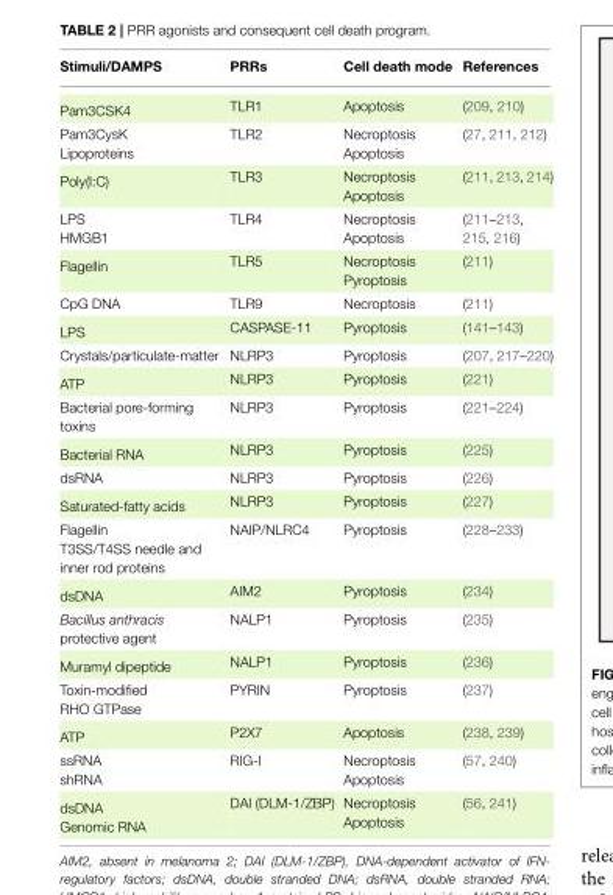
<table><thead><tr><td>Stimuli/DAMPS</td><td>PRRs</td><td>Cell death mode</td><td>References</td></tr></thead><tbody><tr><td>Pam3CSK4</td><td>TLR1</td><td>Apoptosis</td><td>(209, 210)</td></tr><tr><td>Pam3CysK Lipoproteins</td><td>TLR2</td><td>Necroptosis Apoptosis</td><td>(27, 211, 212)</td></tr><tr><td>Poly(I:C)</td><td>TLR3</td><td>Necroptosis Apoptosis</td><td>(211, 213, 214)</td></tr><tr><td>LPS HMGB1</td><td>TLR4</td><td>Necroptosis Apoptosis</td><td>(211–213, 215, 216)</td></tr><tr><td>Flagellin</td><td>TLR5</td><td>Necroptosis Pyroptosis</td><td>(211)</td></tr><tr><td>CpG DNA</td><td>TLR9</td><td>Necroptosis</td><td>(211)</td></tr><tr><td>LPS</td><td>CASPASE-11</td><td>Pyroptosis</td><td>(141–143)</td></tr><tr><td>Crystals/particulate-matter</td><td>NLRP3</td><td>Pyroptosis</td><td>(207, 217–220)</td></tr><tr><td>ATP</td><td>NLRP3</td><td>Pyroptosis</td><td>(221)</td></tr><tr><td>Bacterial pore-forming toxins</td><td>NLRP3</td><td>Pyroptosis</td><td>(221–224)</td></tr><tr><td>Bacterial RNA</td><td>NLRP3</td><td>Pyroptosis</td><td>(225)</td></tr><tr><td>dsRNA</td><td>NLRP3</td><td>Pyroptosis</td><td>(226)</td></tr><tr><td>Saturated-fatty acids</td><td>NLRP3</td><td>Pyroptosis</td><td>(227)</td></tr><tr><td>Flagellin T3SS/T4SS needle and inner rod proteins</td><td>NAIP/NLRC4</td><td>Pyroptosis</td><td>(228–233)</td></tr><tr><td>dsDNA</td><td>AIM2</td><td>Pyroptosis</td><td>(234)</td></tr><tr><td>Bacillus anthracis protective agent</td><td>NALP1</td><td>Pyroptosis</td><td>(235)</td></tr><tr><td>Muramyl dipeptide</td><td>NALP1</td><td>Pyroptosis</td><td>(236)</td></tr><tr><td>Toxin-modified RHO GTPase</td><td>PYRIN</td><td>Pyroptosis</td><td>(237)</td></tr><tr><td>ATP</td><td>P2X7</td><td>Apoptosis</td><td>(238, 239)</td></tr><tr><td>ssRNA shRNA</td><td>RIG-I</td><td>Necroptosis Apoptosis</td><td>(57, 240)</td></tr><tr><td>dsDNA Genomic RNA</td><td>DAI (DLM-1/ZBP)</td><td>Necroptosis Apoptosis</td><td>(56, 241)</td></tr></tbody></table>